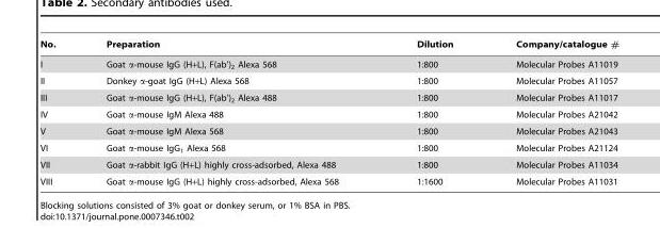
<table><thead><tr><td>No.</td><td>Preparation</td><td>Dilution</td><td>Company/catalogue #</td></tr></thead><tbody><tr><td>I</td><td>Goat α-mouse IgG (H+L), F(ab’)<sub>2</sub> Alexa 568</td><td>1:800</td><td>Molecular Probes A11019</td></tr><tr><td>II</td><td>Donkey α-goat IgG (H+L) Alexa 568</td><td>1:800</td><td>Molecular Probes A11057</td></tr><tr><td>III</td><td>Goat α-mouse IgG (H+L), F(ab’)<sub>2</sub> Alexa 488</td><td>1:800</td><td>Molecular Probes A11017</td></tr><tr><td>IV</td><td>Goat α-mouse IgM Alexa 488</td><td>1:800</td><td>Molecular Probes A21042</td></tr><tr><td>V</td><td>Goat α-mouse IgM Alexa 568</td><td>1:800</td><td>Molecular Probes A21043</td></tr><tr><td>VI</td><td>Goat α-mouse IgG<sub>1</sub> Alexa 568</td><td>1:800</td><td>Molecular Probes A21124</td></tr><tr><td>VII</td><td>Goat α-rabbit IgG (H+L) highly cross-adsorbed, Alexa 488</td><td>1:800</td><td>Molecular Probes A11034</td></tr><tr><td>VIII</td><td>Goat α-mouse IgG (H+L) highly cross-adsorbed, Alexa 568</td><td>1:1600</td><td>Molecular Probes A11031</td></tr></tbody></table>